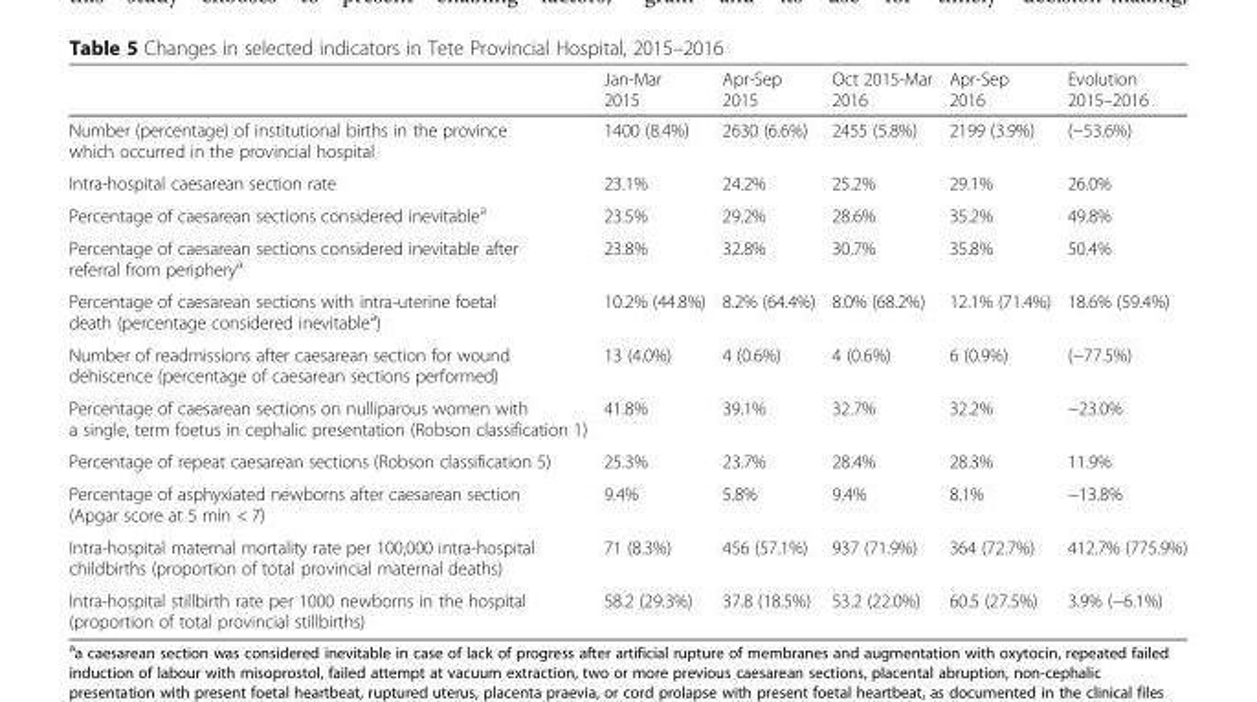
<table><thead><tr><td></td><td>Jan-Mar 2015</td><td>Apr-Sep 2015</td><td>Oct 2015-Mar 2016</td><td>Apr-Sep 2016</td><td>Evolution 2015–2016</td></tr></thead><tbody><tr><td>Number (percentage) of institutional births in the province which occurred in the provincial hospital</td><td>1400 (8.4%)</td><td>2630 (6.6%)</td><td>2455 (5.8%)</td><td>2199 (3.9%)</td><td>(−53.6%)</td></tr><tr><td>Intra-hospital caesarean section rate</td><td>23.1%</td><td>24.2%</td><td>25.2%</td><td>29.1%</td><td>26.0%</td></tr><tr><td>Percentage of caesarean sections considered inevitable<sup>a</sup></td><td>23.5%</td><td>29.2%</td><td>28.6%</td><td>35.2%</td><td>49.8%</td></tr><tr><td>Percentage of caesarean sections considered inevitable after referral from periphery<sup>a</sup></td><td>23.8%</td><td>32.8%</td><td>30.7%</td><td>35.8%</td><td>50.4%</td></tr><tr><td>Percentage of caesarean sections with intra-uterine foetal death (percentage considered inevitable<sup>a</sup>)</td><td>10.2% (44.8%)</td><td>8.2% (64.4%)</td><td>8.0% (68.2%)</td><td>12.1% (71.4%)</td><td>18.6% (59.4%)</td></tr><tr><td>Number of readmissions after caesarean section for wound dehiscence (percentage of caesarean sections performed)</td><td>13 (4.0%)</td><td>4 (0.6%)</td><td>4 (0.6%)</td><td>6 (0.9%)</td><td>(−77.5%)</td></tr><tr><td>Percentage of caesarean sections on nulliparous women with a single, term foetus in cephalic presentation (Robson classification 1)</td><td>41.8%</td><td>39.1%</td><td>32.7%</td><td>32.2%</td><td>−23.0%</td></tr><tr><td>Percentage of repeat caesarean sections (Robson classification 5)</td><td>25.3%</td><td>23.7%</td><td>28.4%</td><td>28.3%</td><td>11.9%</td></tr><tr><td>Percentage of asphyxiated newborns after caesarean section (Apgar score at 5 min &lt; 7)</td><td>9.4%</td><td>5.8%</td><td>9.4%</td><td>8.1%</td><td>−13.8%</td></tr><tr><td>Intra-hospital maternal mortality rate per 100,000 intra-hospital childbirths (proportion of total provincial maternal deaths)</td><td>71 (8.3%)</td><td>456 (57.1%)</td><td>937 (71.9%)</td><td>364 (72.7%)</td><td>412.7% (775.9%)</td></tr><tr><td>Intra-hospital stillbirth rate per 1000 newborns in the hospital (proportion of total provincial stillbirths)</td><td>58.2 (29.3%)</td><td>37.8 (18.5%)</td><td>53.2 (22.0%)</td><td>60.5 (27.5%)</td><td>3.9% (−6.1%)</td></tr></tbody></table>